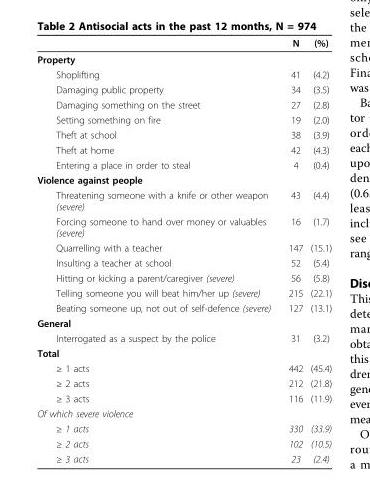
<table><thead><tr><td></td><td>N</td><td>(%)</td></tr></thead><tbody><tr><td colspan="3">Property</td></tr><tr><td>Shoplifting</td><td>41</td><td>(4.2)</td></tr><tr><td>Damaging public property</td><td>34</td><td>(3.5)</td></tr><tr><td>Damaging something on the street</td><td>27</td><td>(2.8)</td></tr><tr><td>Setting something on fire</td><td>19</td><td>(2.0)</td></tr><tr><td>Theft at school</td><td>38</td><td>(3.9)</td></tr><tr><td>Theft at home</td><td>42</td><td>(4.3)</td></tr><tr><td>Entering a place in order to steal</td><td>4</td><td>(0.4)</td></tr><tr><td colspan="3">Violence against people</td></tr><tr><td>Threatening someone with a knife or other weapon (severe)</td><td>43</td><td>(4.4)</td></tr><tr><td>Forcing someone to hand over money or valuables (severe)</td><td>16</td><td>(1.7)</td></tr><tr><td>Quarrelling with a teacher</td><td>147</td><td>(15.1)</td></tr><tr><td>Insulting a teacher at school</td><td>52</td><td>(5.4)</td></tr><tr><td>Hitting or kicking a parent/caregiver (severe)</td><td>56</td><td>(5.8)</td></tr><tr><td>Telling someone you will beat him/her up (severe)</td><td>215</td><td>(22.1)</td></tr><tr><td>Beating someone up, not out of self-defence (severe)</td><td>127</td><td>(13.1)</td></tr><tr><td colspan="3">General</td></tr><tr><td>Interrogated as a suspect by the police</td><td>31</td><td>(3.2)</td></tr><tr><td colspan="3">Total</td></tr><tr><td>≥ 1 acts</td><td>442</td><td>(45.4)</td></tr><tr><td>≥ 2 acts</td><td>212</td><td>(21.8)</td></tr><tr><td>≥ 3 acts</td><td>116</td><td>(11.9)</td></tr><tr><td colspan="3">Of which severe violence</td></tr><tr><td>≥ 1 acts</td><td>330</td><td>(33.9)</td></tr><tr><td>≥ 2 acts</td><td>102</td><td>(10.5)</td></tr><tr><td>≥ 3 acts</td><td>23</td><td>(2.4)</td></tr></tbody></table>